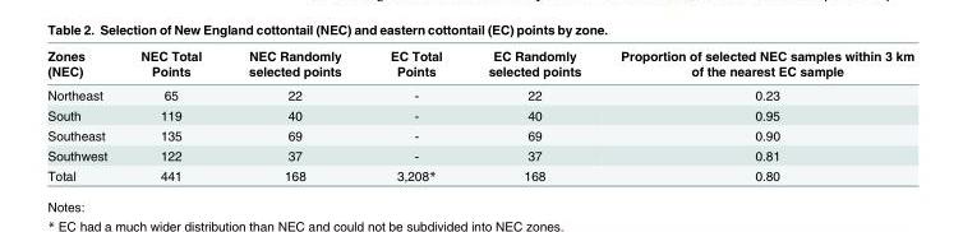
<table><thead><tr><td>Zones (NEC)</td><td>NEC Total Points</td><td>NEC Randomly selected points</td><td>EC Total Points</td><td>EC Randomly selected points</td><td>Proportion of selected NEC samples within 3 km of the nearest EC sample</td></tr></thead><tbody><tr><td>Northeast</td><td>65</td><td>22</td><td>-</td><td>22</td><td>0.23</td></tr><tr><td>South</td><td>119</td><td>40</td><td>-</td><td>40</td><td>0.95</td></tr><tr><td>Southeast</td><td>135</td><td>69</td><td>-</td><td>69</td><td>0.90</td></tr><tr><td>Southwest</td><td>122</td><td>37</td><td>-</td><td>37</td><td>0.81</td></tr><tr><td>Total</td><td>441</td><td>168</td><td>3,208*</td><td>168</td><td>0.80</td></tr></tbody></table>